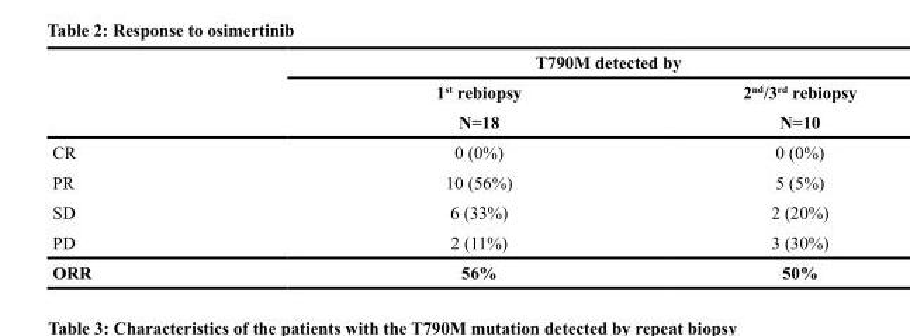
<table><thead><tr><td rowspan="2"></td><td colspan="2">T790M detected by</td></tr><tr><td>1<sup>st</sup> rebiopsy N=18</td><td>2<sup>nd</sup>/3<sup>rd</sup> rebiopsy N=10</td></tr></thead><tbody><tr><td>CR</td><td>0 (0%)</td><td>0 (0%)</td></tr><tr><td>PR</td><td>10 (56%)</td><td>5 (5%)</td></tr><tr><td>SD</td><td>6 (33%)</td><td>2 (20%)</td></tr><tr><td>PD</td><td>2 (11%)</td><td>3 (30%)</td></tr><tr><td>ORR</td><td>56%</td><td>50%</td></tr></tbody></table>